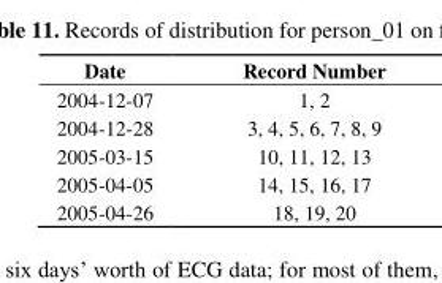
<table><thead><tr><td>Date</td><td>Record Number</td></tr></thead><tbody><tr><td>2004-12-07</td><td>1, 2</td></tr><tr><td>2004-12-28</td><td>3, 4, 5, 6, 7, 8, 9</td></tr><tr><td>2005-03-15</td><td>10, 11, 12, 13</td></tr><tr><td>2005-04-05</td><td>14, 15, 16, 17</td></tr><tr><td>2005-04-26</td><td>18, 19, 20</td></tr></tbody></table>